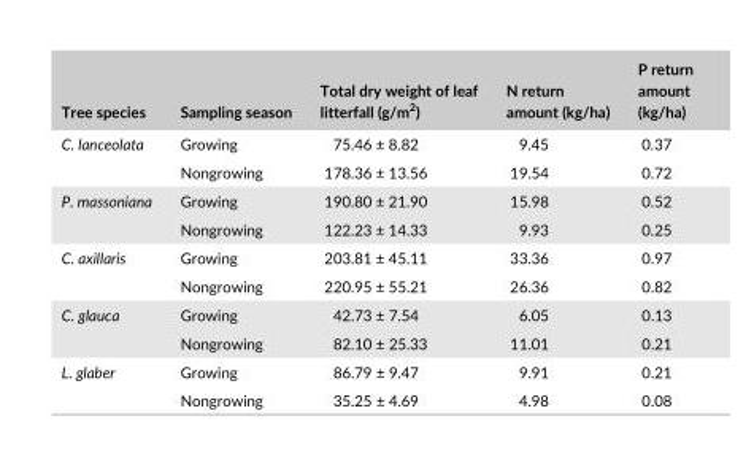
<table><thead><tr><td>Tree species</td><td>Sampling season</td><td>Total dry weight of leaf litterfall (g/m<sup>2</sup>)</td><td>N return amount (kg/ha)</td><td>P return amount (kg/ha)</td></tr></thead><tbody><tr><td rowspan="2">C. lanceolata</td><td>Growing</td><td>75.46 ± 8.82</td><td>9.45</td><td>0.37</td></tr><tr><td>Nongrowing</td><td>178.36 ± 13.56</td><td>19.54</td><td>0.72</td></tr><tr><td rowspan="2">P. massoniana</td><td>Growing</td><td>190.80 ± 21.90</td><td>15.98</td><td>0.52</td></tr><tr><td>Nongrowing</td><td>122.23 ± 14.33</td><td>9.93</td><td>0.25</td></tr><tr><td rowspan="2">C. axillaris</td><td>Growing</td><td>203.81 ± 45.11</td><td>33.36</td><td>0.97</td></tr><tr><td>Nongrowing</td><td>220.95 ± 55.21</td><td>26.36</td><td>0.82</td></tr><tr><td rowspan="2">C. glauca</td><td>Growing</td><td>42.73 ± 7.54</td><td>6.05</td><td>0.13</td></tr><tr><td>Nongrowing</td><td>82.10 ± 25.33</td><td>11.01</td><td>0.21</td></tr><tr><td rowspan="2">L. glaber</td><td>Growing</td><td>86.79 ± 9.47</td><td>9.91</td><td>0.21</td></tr><tr><td>Nongrowing</td><td>35.25 ± 4.69</td><td>4.98</td><td>0.08</td></tr></tbody></table>